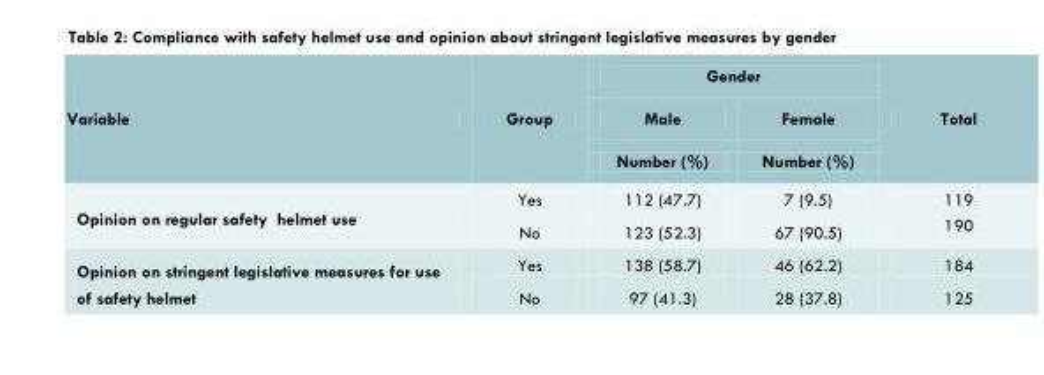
<table><thead><tr><td rowspan="3">Variable</td><td rowspan="3">Group</td><td colspan="2">Gender</td><td rowspan="3">Total</td></tr><tr><td rowspan="2">Male Number (%)</td><td rowspan="2">Female Number (%)</td></tr><tr></tr></thead><tbody><tr><td rowspan="2">Opinion on regular safety helmet use</td><td>Yes</td><td>112 (47.7)</td><td>7 (9.5)</td><td>119</td></tr><tr><td>No</td><td>123 (52.3)</td><td>67 (90.5)</td><td>190</td></tr><tr><td rowspan="2">Opinion on stringent legislative measures for use of safety helmet</td><td>Yes</td><td>138 (58.7)</td><td>46 (62.2)</td><td>184</td></tr><tr><td>No</td><td>97 (41.3)</td><td>28 (37.8)</td><td>125</td></tr></tbody></table>